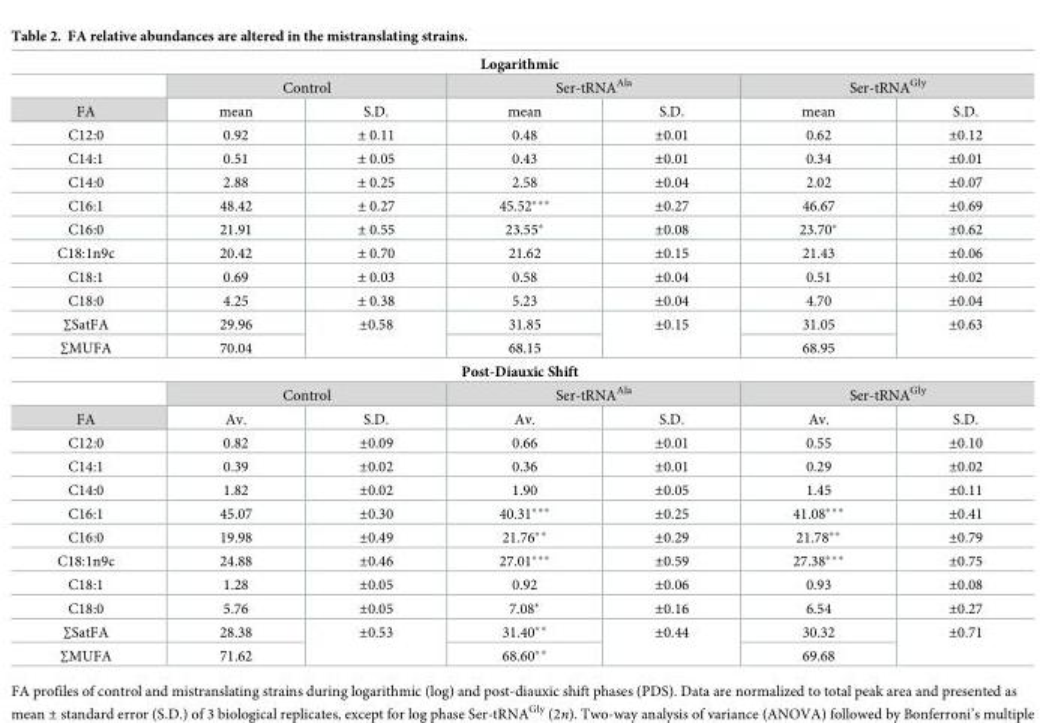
<table><tbody><tr><td colspan="7">Logarithmic</td></tr><tr><td></td><td colspan="2">Control</td><td colspan="2">Ser-tRNA<sup>Ala</sup></td><td colspan="2">Ser-tRNA<sup>Gly</sup></td></tr><tr><td>FA</td><td>mean</td><td>S.D.</td><td>mean</td><td>S.D.</td><td>mean</td><td>S.D.</td></tr><tr><td>C12:0</td><td>0.92</td><td>± 0.11</td><td>0.48</td><td>±0.01</td><td>0.62</td><td>±0.12</td></tr><tr><td>C14:1</td><td>0.51</td><td>± 0.05</td><td>0.43</td><td>±0.01</td><td>0.34</td><td>±0.01</td></tr><tr><td>C14:0</td><td>2.88</td><td>± 0.25</td><td>2.58</td><td>±0.04</td><td>2.02</td><td>±0.07</td></tr><tr><td>C16:1</td><td>48.42</td><td>± 0.27</td><td>45.52***</td><td>±0.27</td><td>46.67</td><td>±0.69</td></tr><tr><td>C16:0</td><td>21.91</td><td>± 0.55</td><td>23.55*</td><td>±0.08</td><td>23.70*</td><td>±0.62</td></tr><tr><td>C18:1n9c</td><td>20.42</td><td>± 0.70</td><td>21.62</td><td>±0.15</td><td>21.43</td><td>±0.06</td></tr><tr><td>C18:1</td><td>0.69</td><td>± 0.03</td><td>0.58</td><td>±0.04</td><td>0.51</td><td>±0.02</td></tr><tr><td>C18:0</td><td>4.25</td><td>± 0.38</td><td>5.23</td><td>±0.04</td><td>4.70</td><td>±0.04</td></tr><tr><td>∑SatFA</td><td>29.96</td><td rowspan="2">±0.58</td><td>31.85</td><td rowspan="2">±0.15</td><td>31.05</td><td rowspan="2">±0.63</td></tr><tr><td>∑MUFA</td><td>70.04</td><td>68.15</td><td>68.95</td></tr><tr><td colspan="7">Post-Diauxic Shift</td></tr><tr><td></td><td colspan="2">Control</td><td colspan="2">Ser-tRNA<sup>Ala</sup></td><td colspan="2">Ser-tRNA<sup>Gly</sup></td></tr><tr><td>FA</td><td>Av.</td><td>S.D.</td><td>Av.</td><td>S.D.</td><td>Av.</td><td>S.D.</td></tr><tr><td>C12:0</td><td>0.82</td><td>±0.09</td><td>0.66</td><td>±0.01</td><td>0.55</td><td>±0.10</td></tr><tr><td>C14:1</td><td>0.39</td><td>±0.02</td><td>0.36</td><td>±0.01</td><td>0.29</td><td>±0.02</td></tr><tr><td>C14:0</td><td>1.82</td><td>±0.02</td><td>1.90</td><td>±0.05</td><td>1.45</td><td>±0.11</td></tr><tr><td>C16:1</td><td>45.07</td><td>±0.30</td><td>40.31***</td><td>±0.25</td><td>41.08***</td><td>±0.41</td></tr><tr><td>C16:0</td><td>19.98</td><td>±0.49</td><td>21.76**</td><td>±0.29</td><td>21.78**</td><td>±0.79</td></tr><tr><td>C18:1n9c</td><td>24.88</td><td>±0.46</td><td>27.01***</td><td>±0.59</td><td>27.38***</td><td>±0.75</td></tr><tr><td>C18:1</td><td>1.28</td><td>±0.05</td><td>0.92</td><td>±0.06</td><td>0.93</td><td>±0.08</td></tr><tr><td>C18:0</td><td>5.76</td><td>±0.05</td><td>7.08*</td><td>±0.16</td><td>6.54</td><td>±0.27</td></tr><tr><td>∑SatFA</td><td>28.38</td><td rowspan="2">±0.53</td><td>31.40**</td><td rowspan="2">±0.44</td><td>30.32</td><td rowspan="2">±0.71</td></tr><tr><td>∑MUFA</td><td>71.62</td><td>68.60**</td><td>69.68</td></tr></tbody></table>